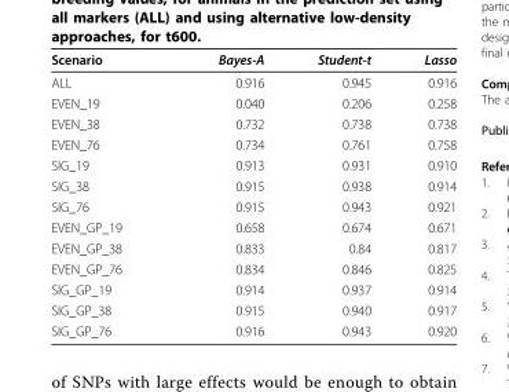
<table><thead><tr><td>Scenario</td><td>Bayes-A</td><td>Student-t</td><td>Lasso</td></tr></thead><tbody><tr><td>ALL</td><td>0.916</td><td>0.945</td><td>0.916</td></tr><tr><td>EVEN_19</td><td>0.040</td><td>0.206</td><td>0.258</td></tr><tr><td>EVEN_38</td><td>0.732</td><td>0.738</td><td>0.738</td></tr><tr><td>EVEN_76</td><td>0.734</td><td>0.761</td><td>0.758</td></tr><tr><td>SIG_19</td><td>0.913</td><td>0.931</td><td>0.910</td></tr><tr><td>SIG_38</td><td>0.915</td><td>0.938</td><td>0.914</td></tr><tr><td>SIG_76</td><td>0.915</td><td>0.943</td><td>0.921</td></tr><tr><td>EVEN_GP_19</td><td>0.658</td><td>0.674</td><td>0.671</td></tr><tr><td>EVEN_GP_38</td><td>0.833</td><td>0.84</td><td>0.817</td></tr><tr><td>EVEN_GP_76</td><td>0.834</td><td>0.846</td><td>0.825</td></tr><tr><td>SIG_GP_19</td><td>0.914</td><td>0.937</td><td>0.914</td></tr><tr><td>SIG_GP_38</td><td>0.915</td><td>0.940</td><td>0.917</td></tr><tr><td>SIG_GP_76</td><td>0.916</td><td>0.943</td><td>0.920</td></tr></tbody></table>